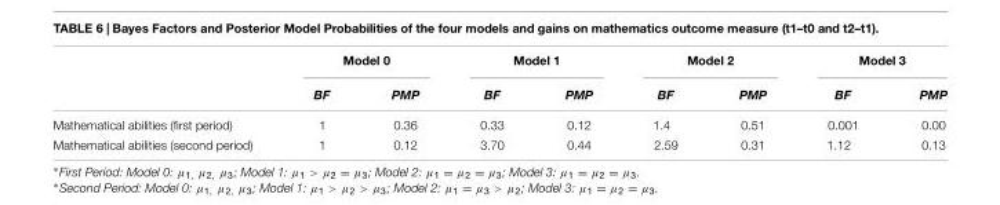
<table><thead><tr><td rowspan="2"></td><td colspan="2">Model 0</td><td colspan="2">Model 1</td><td colspan="2">Model 2</td><td colspan="2">Model 3</td></tr><tr><td>BF</td><td>PMP</td><td>BF</td><td>PMP</td><td>BF</td><td>PMP</td><td>BF</td><td>PMP</td></tr></thead><tbody><tr><td>Mathematical abilities (first period)</td><td>1</td><td>0.36</td><td>0.33</td><td>0.12</td><td>1.4</td><td>0.51</td><td>0.001</td><td>0.00</td></tr><tr><td>Mathematical abilities (second period)</td><td>1</td><td>0.12</td><td>3.70</td><td>0.44</td><td>2.59</td><td>0.31</td><td>1.12</td><td>0.13</td></tr></tbody></table>